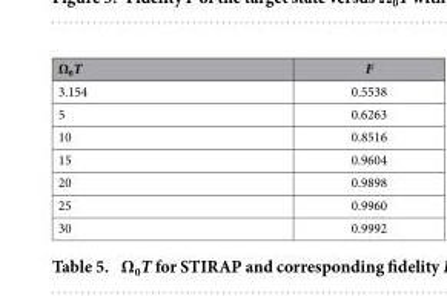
<table><thead><tr><td>Ω<sub>0</sub>T</td><td>F</td></tr></thead><tbody><tr><td>3.154</td><td>0.5538</td></tr><tr><td>5</td><td>0.6263</td></tr><tr><td>10</td><td>0.8516</td></tr><tr><td>15</td><td>0.9604</td></tr><tr><td>20</td><td>0.9898</td></tr><tr><td>25</td><td>0.9960</td></tr><tr><td>30</td><td>0.9992</td></tr></tbody></table>